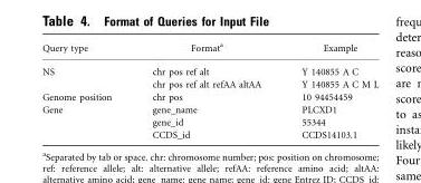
<table><thead><tr><td>Query type</td><td>Format<sup>a</sup></td><td>Example</td></tr></thead><tbody><tr><td rowspan="2">NS</td><td>chr pos ref alt</td><td>Y 140855 A C</td></tr><tr><td>chr pos ref alt refAA altAA</td><td>Y 140855 A C M L</td></tr><tr><td>Genome position</td><td>chr pos</td><td>10 94454459</td></tr><tr><td rowspan="3">Gene</td><td>gene_name</td><td>PLCXD1</td></tr><tr><td>gene_id</td><td>55344</td></tr><tr><td>CCDS_id</td><td>CCDS14103.1</td></tr></tbody></table>